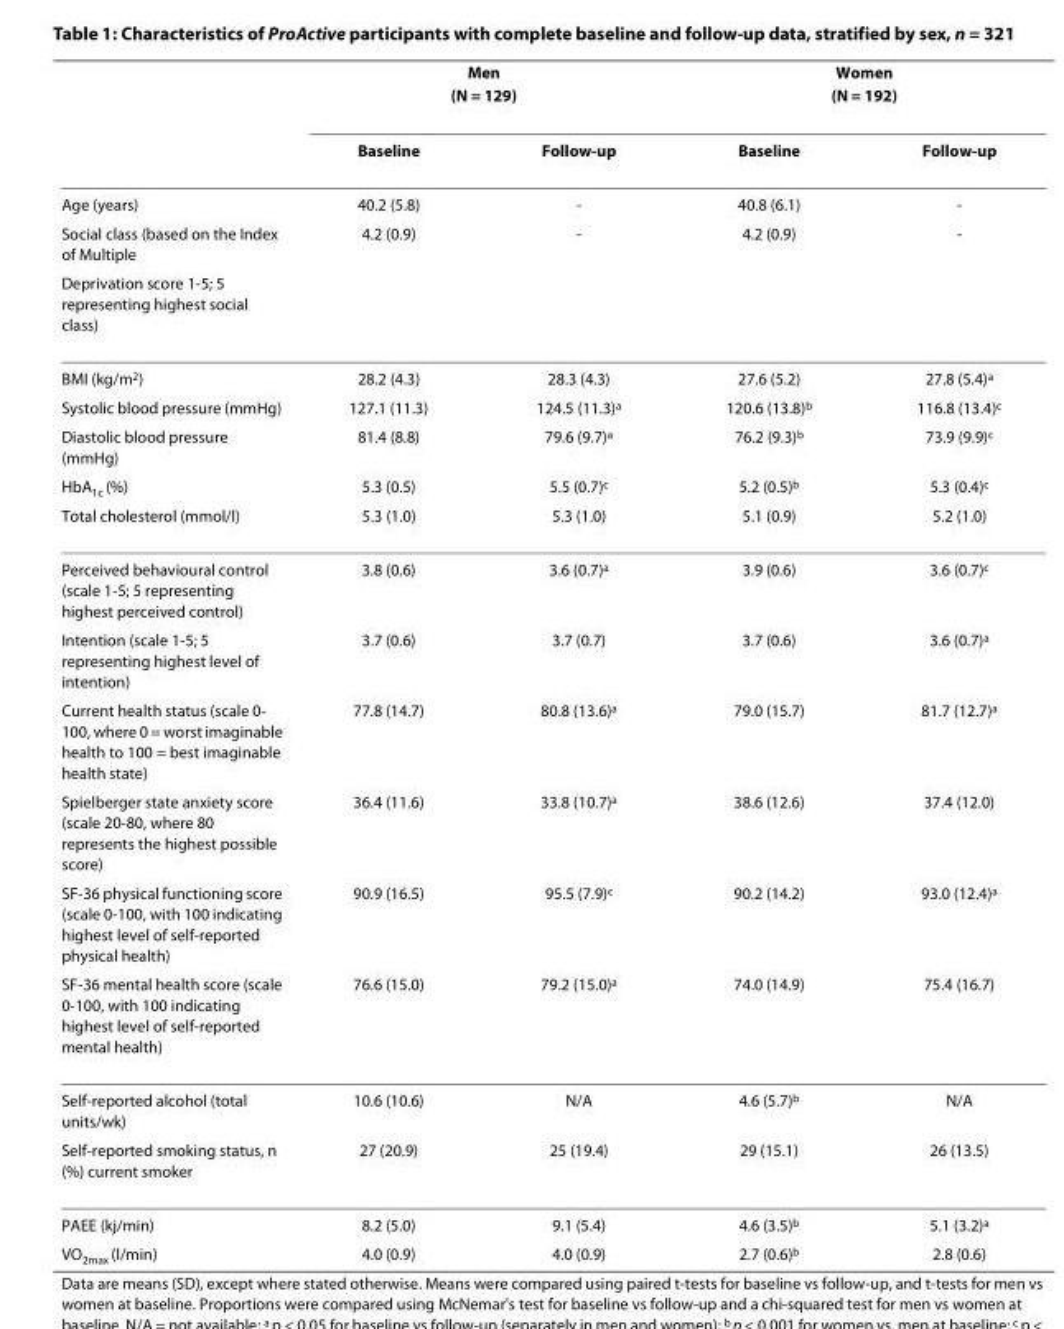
<table><thead><tr><td rowspan="2"></td><td colspan="2">Men (N = 129)</td><td colspan="2">Women (N = 192)</td></tr><tr><td>Baseline</td><td>Follow-up</td><td>Baseline</td><td>Follow-up</td></tr></thead><tbody><tr><td>Age (years)</td><td>40.2 (5.8)</td><td>-</td><td>40.8 (6.1)</td><td>-</td></tr><tr><td>Social class (based on the Index of Multiple</td><td>4.2 (0.9)</td><td>-</td><td>4.2 (0.9)</td><td>-</td></tr><tr><td colspan="5">Deprivation score 1-5; 5 representing highest social class)</td></tr><tr><td>BMI (kg/m<sup>2</sup>)</td><td>28.2 (4.3)</td><td>28.3 (4.3)</td><td>27.6 (5.2)</td><td>27.8 (5.4)<sup>a</sup></td></tr><tr><td>Systolic blood pressure (mmHg)</td><td>127.1 (11.3)</td><td>124.5 (11.3)<sup>a</sup></td><td>120.6 (13.8)<sup>b</sup></td><td>116.8 (13.4)<sup>c</sup></td></tr><tr><td>Diastolic blood pressure (mmHg)</td><td>81.4 (8.8)</td><td>79.6 (9.7)<sup>a</sup></td><td>76.2 (9.3)<sup>b</sup></td><td>73.9 (9.9)<sup>c</sup></td></tr><tr><td>HbA<sub>1c</sub> (%)</td><td>5.3 (0.5)</td><td>5.5 (0.7)<sup>c</sup></td><td>5.2 (0.5)<sup>b</sup></td><td>5.3 (0.4)<sup>c</sup></td></tr><tr><td>Total cholesterol (mmol/l)</td><td>5.3 (1.0)</td><td>5.3 (1.0)</td><td>5.1 (0.9)</td><td>5.2 (1.0)</td></tr><tr><td>Perceived behavioural control (scale 1-5; 5 representing highest perceived control)</td><td>3.8 (0.6)</td><td>3.6 (0.7)<sup>a</sup></td><td>3.9 (0.6)</td><td>3.6 (0.7)<sup>c</sup></td></tr><tr><td>Intention (scale 1-5; 5 representing highest level of intention)</td><td>3.7 (0.6)</td><td>3.7 (0.7)</td><td>3.7 (0.6)</td><td>3.6 (0.7)<sup>a</sup></td></tr><tr><td>Current health status (scale 0- 100, where 0 = worst imaginable health to 100 = best imaginable health state)</td><td>77.8 (14.7)</td><td>80.8 (13.6)<sup>a</sup></td><td>79.0 (15.7)</td><td>81.7 (12.7)<sup>a</sup></td></tr><tr><td>Spielberger state anxiety score (scale 20-80, where 80 represents the highest possible score)</td><td>36.4 (11.6)</td><td>33.8 (10.7)<sup>a</sup></td><td>38.6 (12.6)</td><td>37.4 (12.0)</td></tr><tr><td>SF-36 physical functioning score (scale 0-100, with 100 indicating highest level of self-reported physical health)</td><td>90.9 (16.5)</td><td>95.5 (7.9)<sup>c</sup></td><td>90.2 (14.2)</td><td>93.0 (12.4)<sup>a</sup></td></tr><tr><td>SF-36 mental health score (scale 0-100, with 100 indicating highest level of self-reported mental health)</td><td>76.6 (15.0)</td><td>79.2 (15.0)<sup>a</sup></td><td>74.0 (14.9)</td><td>75.4 (16.7)</td></tr><tr><td>Self-reported alcohol (total units/wk)</td><td>10.6 (10.6)</td><td>N/A</td><td>4.6 (5.7)<sup>b</sup></td><td>N/A</td></tr><tr><td>Self-reported smoking status, n (%) current smoker</td><td>27 (20.9)</td><td>25 (19.4)</td><td>29 (15.1)</td><td>26 (13.5)</td></tr><tr><td>PAEE (kj/min)</td><td>8.2 (5.0)</td><td>9.1 (5.4)</td><td>4.6 (3.5)<sup>b</sup></td><td>5.1 (3.2)<sup>a</sup></td></tr><tr><td>VO<sub>2max</sub> (l/min)</td><td>4.0 (0.9)</td><td>4.0 (0.9)</td><td>2.7 (0.6)<sup>b</sup></td><td>2.8 (0.6)</td></tr></tbody></table>